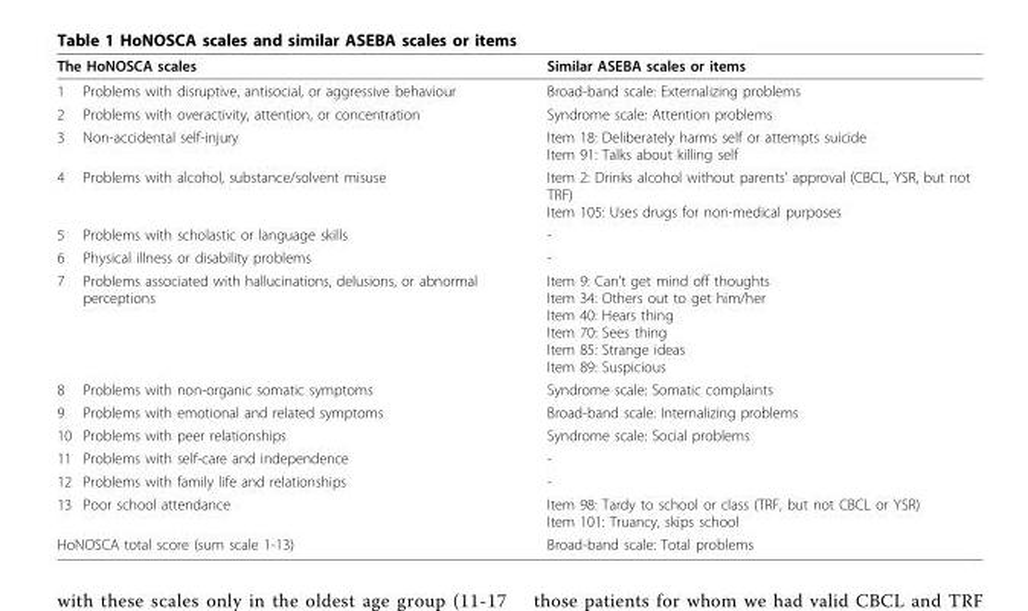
<table><thead><tr><td colspan="2">The HoNOSCA scales</td><td rowspan="2">Similar ASEBA scales or items Broad-band scale: Externalizing problems</td></tr><tr><td>1</td><td>Problems with disruptive, antisocial, or aggressive behaviour</td></tr></thead><tbody><tr><td>2</td><td>Problems with overactivity, attention, or concentration</td><td>Syndrome scale: Attention problems</td></tr><tr><td>3</td><td>Non-accidental self-injury</td><td>Item 18: Deliberately harms self or attempts suicide Item 91: Talks about killing self</td></tr><tr><td>4</td><td>Problems with alcohol, substance/solvent misuse</td><td>Item 2: Drinks alcohol without parents’ approval (CBCL, YSR, but not TRF) Item 105: Uses drugs for non-medical purposes</td></tr><tr><td>5</td><td>Problems with scholastic or language skills</td><td>-</td></tr><tr><td>6</td><td>Physical illness or disability problems</td><td>-</td></tr><tr><td>7</td><td>Problems associated with hallucinations, delusions, or abnormal perceptions</td><td>Item 9: Can’t get mind off thoughts Item 34: Others out to get him/her Item 40: Hears thing Item 70: Sees thing Item 85: Strange ideas Item 89: Suspicious</td></tr><tr><td>8</td><td>Problems with non-organic somatic symptoms</td><td>Syndrome scale: Somatic complaints</td></tr><tr><td>9</td><td>Problems with emotional and related symptoms</td><td>Broad-band scale: Internalizing problems</td></tr><tr><td>10</td><td>Problems with peer relationships</td><td>Syndrome scale: Social problems</td></tr><tr><td>11</td><td>Problems with self-care and independence</td><td>-</td></tr><tr><td>12</td><td>Problems with family life and relationships</td><td>-</td></tr><tr><td>13</td><td>Poor school attendance</td><td>Item 98: Tardy to school or class (TRF, but not CBCL or YSR) Item 101: Truancy, skips school</td></tr><tr><td colspan="2">HoNOSCA total score (sum scale 1-13)</td><td>Broad-band scale: Total problems</td></tr></tbody></table>